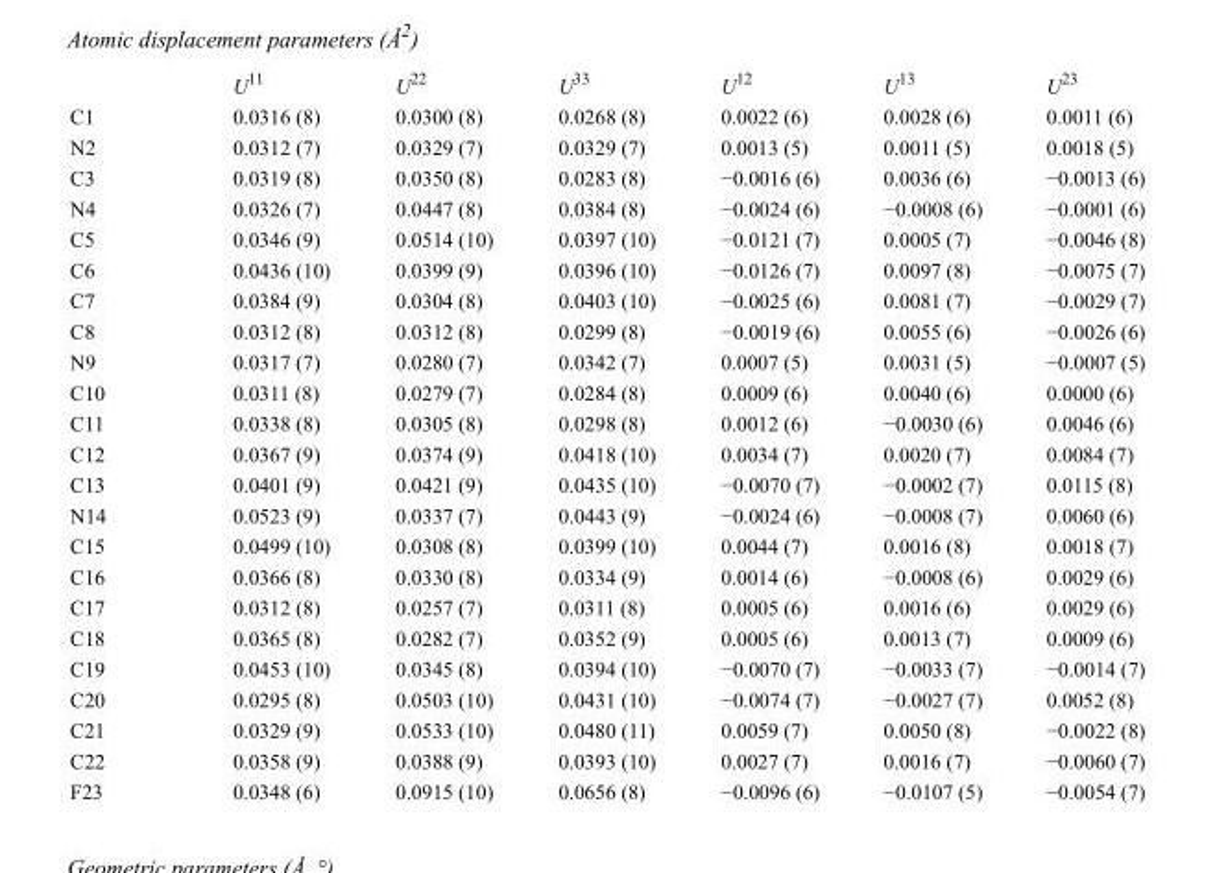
<table><thead><tr><td></td><td>U<sup>11</sup></td><td>U<sup>22</sup></td><td>U<sup>33</sup></td><td>U<sup>12</sup></td><td>U<sup>13</sup></td><td>U<sup>23</sup></td></tr></thead><tbody><tr><td>C1</td><td>0.0316 (8)</td><td>0.0300 (8)</td><td>0.0268 (8)</td><td>0.0022 (6)</td><td>0.0028 (6)</td><td>0.0011 (6)</td></tr><tr><td>N2</td><td>0.0312 (7)</td><td>0.0329 (7)</td><td>0.0329 (7)</td><td>0.0013 (5)</td><td>0.0011 (5)</td><td>0.0018 (5)</td></tr><tr><td>C3</td><td>0.0319 (8)</td><td>0.0350 (8)</td><td>0.0283 (8)</td><td>−0.0016 (6)</td><td>0.0036 (6)</td><td>−0.0013 (6)</td></tr><tr><td>N4</td><td>0.0326 (7)</td><td>0.0447 (8)</td><td>0.0384 (8)</td><td>−0.0024 (6)</td><td>−0.0008 (6)</td><td>−0.0001 (6)</td></tr><tr><td>C5</td><td>0.0346 (9)</td><td>0.0514 (10)</td><td>0.0397 (10)</td><td>−0.0121 (7)</td><td>0.0005 (7)</td><td>−0.0046 (8)</td></tr><tr><td>C6</td><td>0.0436 (10)</td><td>0.0399 (9)</td><td>0.0396 (10)</td><td>−0.0126 (7)</td><td>0.0097 (8)</td><td>−0.0075 (7)</td></tr><tr><td>C7</td><td>0.0384 (9)</td><td>0.0304 (8)</td><td>0.0403 (10)</td><td>−0.0025 (6)</td><td>0.0081 (7)</td><td>−0.0029 (7)</td></tr><tr><td>C8</td><td>0.0312 (8)</td><td>0.0312 (8)</td><td>0.0299 (8)</td><td>−0.0019 (6)</td><td>0.0055 (6)</td><td>−0.0026 (6)</td></tr><tr><td>N9</td><td>0.0317 (7)</td><td>0.0280 (7)</td><td>0.0342 (7)</td><td>0.0007 (5)</td><td>0.0031 (5)</td><td>−0.0007 (5)</td></tr><tr><td>C10</td><td>0.0311 (8)</td><td>0.0279 (7)</td><td>0.0284 (8)</td><td>0.0009 (6)</td><td>0.0040 (6)</td><td>0.0000 (6)</td></tr><tr><td>C11</td><td>0.0338 (8)</td><td>0.0305 (8)</td><td>0.0298 (8)</td><td>0.0012 (6)</td><td>−0.0030 (6)</td><td>0.0046 (6)</td></tr><tr><td>C12</td><td>0.0367 (9)</td><td>0.0374 (9)</td><td>0.0418 (10)</td><td>0.0034 (7)</td><td>0.0020 (7)</td><td>0.0084 (7)</td></tr><tr><td>C13</td><td>0.0401 (9)</td><td>0.0421 (9)</td><td>0.0435 (10)</td><td>−0.0070 (7)</td><td>−0.0002 (7)</td><td>0.0115 (8)</td></tr><tr><td>N14</td><td>0.0523 (9)</td><td>0.0337 (7)</td><td>0.0443 (9)</td><td>−0.0024 (6)</td><td>−0.0008 (7)</td><td>0.0060 (6)</td></tr><tr><td>C15</td><td>0.0499 (10)</td><td>0.0308 (8)</td><td>0.0399 (10)</td><td>0.0044 (7)</td><td>0.0016 (8)</td><td>0.0018 (7)</td></tr><tr><td>C16</td><td>0.0366 (8)</td><td>0.0330 (8)</td><td>0.0334 (9)</td><td>0.0014 (6)</td><td>−0.0008 (6)</td><td>0.0029 (6)</td></tr><tr><td>C17</td><td>0.0312 (8)</td><td>0.0257 (7)</td><td>0.0311 (8)</td><td>0.0005 (6)</td><td>0.0016 (6)</td><td>0.0029 (6)</td></tr><tr><td>C18</td><td>0.0365 (8)</td><td>0.0282 (7)</td><td>0.0352 (9)</td><td>0.0005 (6)</td><td>0.0013 (7)</td><td>0.0009 (6)</td></tr><tr><td>C19</td><td>0.0453 (10)</td><td>0.0345 (8)</td><td>0.0394 (10)</td><td>−0.0070 (7)</td><td>−0.0033 (7)</td><td>−0.0014 (7)</td></tr><tr><td>C20</td><td>0.0295 (8)</td><td>0.0503 (10)</td><td>0.0431 (10)</td><td>−0.0074 (7)</td><td>−0.0027 (7)</td><td>0.0052 (8)</td></tr><tr><td>C21</td><td>0.0329 (9)</td><td>0.0533 (10)</td><td>0.0480 (11)</td><td>0.0059 (7)</td><td>0.0050 (8)</td><td>−0.0022 (8)</td></tr><tr><td>C22</td><td>0.0358 (9)</td><td>0.0388 (9)</td><td>0.0393 (10)</td><td>0.0027 (7)</td><td>0.0016 (7)</td><td>−0.0060 (7)</td></tr><tr><td>F23</td><td>0.0348 (6)</td><td>0.0915 (10)</td><td>0.0656 (8)</td><td>−0.0096 (6)</td><td>−0.0107 (5)</td><td>−0.0054 (7)</td></tr></tbody></table>